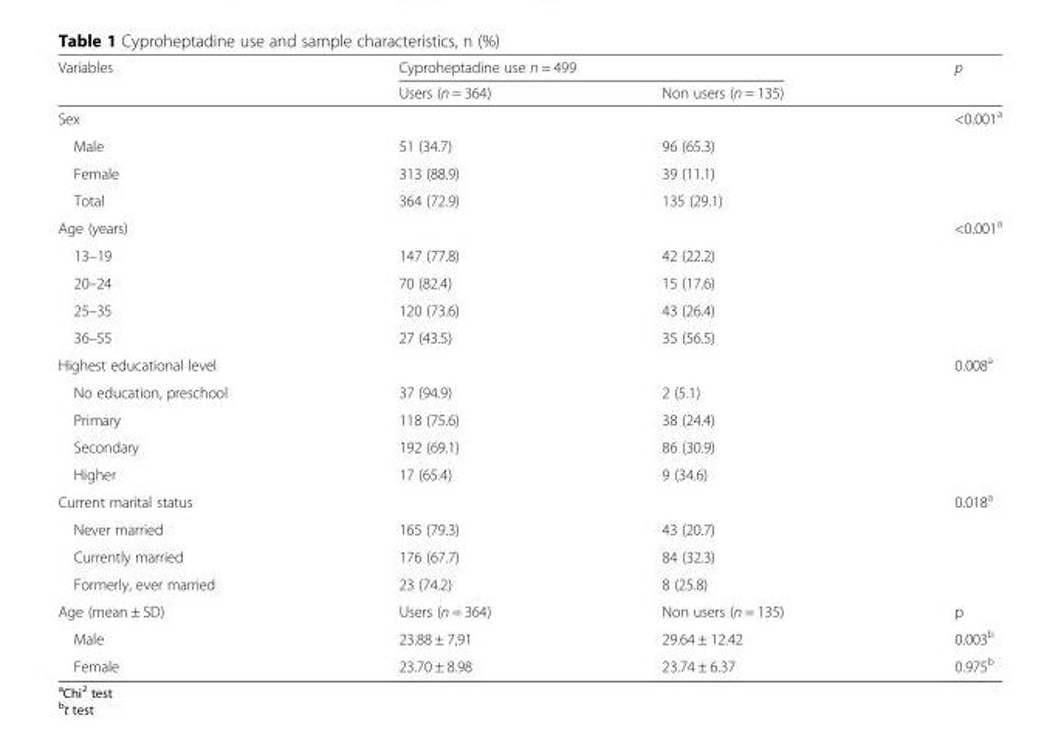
<table><thead><tr><td rowspan="2">Variables</td><td colspan="2">Cyproheptadine use n = 499</td><td rowspan="2">p</td></tr><tr><td>Users (n = 364)</td><td>Non users (n = 135)</td></tr></thead><tbody><tr><td>Sex</td><td></td><td></td><td>&lt;0.001<sup>a</sup></td></tr><tr><td>Male</td><td>51 (34.7)</td><td>96 (65.3)</td><td></td></tr><tr><td>Female</td><td>313 (88.9)</td><td>39 (11.1)</td><td></td></tr><tr><td>Total</td><td>364 (72.9)</td><td>135 (29.1)</td><td></td></tr><tr><td>Age (years)</td><td></td><td></td><td>&lt;0.001<sup>a</sup></td></tr><tr><td>13–19</td><td>147 (77.8)</td><td>42 (22.2)</td><td></td></tr><tr><td>20–24</td><td>70 (82.4)</td><td>15 (17.6)</td><td></td></tr><tr><td>25–35</td><td>120 (73.6)</td><td>43 (26.4)</td><td></td></tr><tr><td>36–55</td><td>27 (43.5)</td><td>35 (56.5)</td><td></td></tr><tr><td>Highest educational level</td><td></td><td></td><td>0.008<sup>a</sup></td></tr><tr><td>No education, preschool</td><td>37 (94.9)</td><td>2 (5.1)</td><td></td></tr><tr><td>Primary</td><td>118 (75.6)</td><td>38 (24.4)</td><td></td></tr><tr><td>Secondary</td><td>192 (69.1)</td><td>86 (30.9)</td><td></td></tr><tr><td>Higher</td><td>17 (65.4)</td><td>9 (34.6)</td><td></td></tr><tr><td>Current marital status</td><td></td><td></td><td>0.018<sup>a</sup></td></tr><tr><td>Never married</td><td>165 (79.3)</td><td>43 (20.7)</td><td></td></tr><tr><td>Currently married</td><td>176 (67.7)</td><td>84 (32.3)</td><td></td></tr><tr><td>Formerly, ever married</td><td>23 (74.2)</td><td>8 (25.8)</td><td></td></tr><tr><td>Age (mean ± SD)</td><td>Users (n = 364)</td><td>Non users (n = 135)</td><td>p</td></tr><tr><td>Male</td><td>23.88 ± 7,91</td><td>29.64 ± 12.42</td><td>0.003<sup>b</sup></td></tr><tr><td>Female</td><td>23.70 ± 8.98</td><td>23.74 ± 6.37</td><td>0.975<sup>b</sup></td></tr></tbody></table>